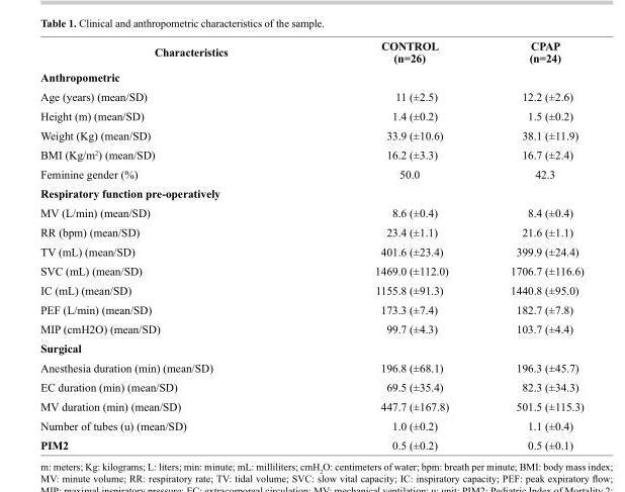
<table><thead><tr><td>Characteristics</td><td>CONTROL (n=26)</td><td>CPAP (n=24)</td></tr></thead><tbody><tr><td colspan="3">Anthropometric</td></tr><tr><td>Age (years) (mean/SD)</td><td>11 (±2.5)</td><td>12.2 (±2.6)</td></tr><tr><td>Height (m) (mean/SD)</td><td>1.4 (±0.2)</td><td>1.5 (±0.2)</td></tr><tr><td>Weight (Kg) (mean/SD)</td><td>33.9 (±10.6)</td><td>38.1 (±11.9)</td></tr><tr><td>BMI (Kg/m<sup>2</sup>) (mean/SD)</td><td>16.2 (±3.3)</td><td>16.7 (±2.4)</td></tr><tr><td>Feminine gender (%)</td><td>50.0</td><td>42.3</td></tr><tr><td colspan="3">Respiratory function pre-operatively</td></tr><tr><td>MV (L/min) (mean/SD)</td><td>8.6 (±0.4)</td><td>8.4 (±0.4)</td></tr><tr><td>RR (bpm) (mean/SD)</td><td>23.4 (±1.1)</td><td>21.6 (±1.1)</td></tr><tr><td>TV (mL) (mean/SD)</td><td>401.6 (±23.4)</td><td>399.9 (±24.4)</td></tr><tr><td>SVC (mL) (mean/SD)</td><td>1469.0 (±112.0)</td><td>1706.7 (±116.6)</td></tr><tr><td>IC (mL) (mean/SD)</td><td>1155.8 (±91.3)</td><td>1440.8 (±95.0)</td></tr><tr><td>PEF (L/min) (mean/SD)</td><td>173.3 (±7.4)</td><td>182.7 (±7.8)</td></tr><tr><td>MIP (cmH2O) (mean/SD)</td><td>99.7 (±4.3)</td><td>103.7 (±4.4)</td></tr><tr><td colspan="3">Surgical</td></tr><tr><td>Anesthesia duration (min) (mean/SD)</td><td>196.8 (±68.1)</td><td>196.3 (±45.7)</td></tr><tr><td>EC duration (min) (mean/SD)</td><td>69.5 (±35.4)</td><td>82.3 (±34.3)</td></tr><tr><td>MV duration (min) (mean/SD)</td><td>447.7 (±167.8)</td><td>501.5 (±115.3)</td></tr><tr><td>Number of tubes (u) (mean/SD)</td><td>1.0 (±0.2)</td><td>1.1 (±0.4)</td></tr><tr><td>PIM2</td><td>0.5 (±0.2)</td><td>0.5 (±0.1)</td></tr></tbody></table>